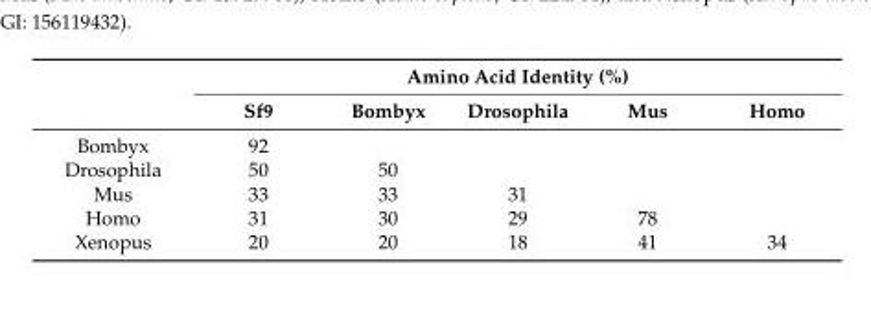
<table><thead><tr><td rowspan="2"></td><td colspan="5">Amino Acid Identity (%)</td></tr><tr><td>Sf9</td><td>Bombyx</td><td>Drosophila</td><td>Mus</td><td>Homo</td></tr></thead><tbody><tr><td>Bombyx</td><td>92</td><td></td><td></td><td></td><td></td></tr><tr><td>Drosophila</td><td>50</td><td>50</td><td></td><td></td><td></td></tr><tr><td>Mus</td><td>33</td><td>33</td><td>31</td><td></td><td></td></tr><tr><td>Homo</td><td>31</td><td>30</td><td>29</td><td>78</td><td></td></tr><tr><td>Xenopus</td><td>20</td><td>20</td><td>18</td><td>41</td><td>34</td></tr></tbody></table>